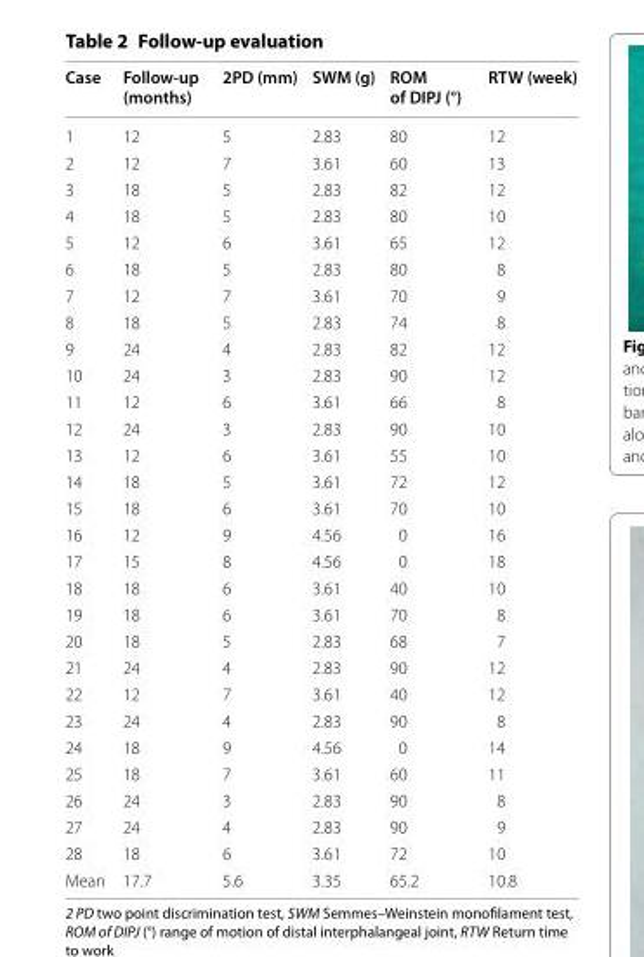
<table><thead><tr><td>Case</td><td>Follow-up (months)</td><td>2PD (mm)</td><td>SWM (g)</td><td>ROM of DIPJ (°)</td><td>RTW (week)</td></tr></thead><tbody><tr><td>1</td><td>12</td><td>5</td><td>2.83</td><td>80</td><td>12</td></tr><tr><td>2</td><td>12</td><td>7</td><td>3.61</td><td>60</td><td>13</td></tr><tr><td>3</td><td>18</td><td>5</td><td>2.83</td><td>82</td><td>12</td></tr><tr><td>4</td><td>18</td><td>5</td><td>2.83</td><td>80</td><td>10</td></tr><tr><td>5</td><td>12</td><td>6</td><td>3.61</td><td>65</td><td>12</td></tr><tr><td>6</td><td>18</td><td>5</td><td>2.83</td><td>80</td><td>8</td></tr><tr><td>7</td><td>12</td><td>7</td><td>3.61</td><td>70</td><td>9</td></tr><tr><td>8</td><td>18</td><td>5</td><td>2.83</td><td>74</td><td>8</td></tr><tr><td>9</td><td>24</td><td>4</td><td>2.83</td><td>82</td><td>12</td></tr><tr><td>10</td><td>24</td><td>3</td><td>2.83</td><td>90</td><td>12</td></tr><tr><td>11</td><td>12</td><td>6</td><td>3.61</td><td>66</td><td>8</td></tr><tr><td>12</td><td>24</td><td>3</td><td>2.83</td><td>90</td><td>10</td></tr><tr><td>13</td><td>12</td><td>6</td><td>3.61</td><td>55</td><td>10</td></tr><tr><td>14</td><td>18</td><td>5</td><td>3.61</td><td>72</td><td>12</td></tr><tr><td>15</td><td>18</td><td>6</td><td>3.61</td><td>70</td><td>10</td></tr><tr><td>16</td><td>12</td><td>9</td><td>4.56</td><td>0</td><td>16</td></tr><tr><td>17</td><td>15</td><td>8</td><td>4.56</td><td>0</td><td>18</td></tr><tr><td>18</td><td>18</td><td>6</td><td>3.61</td><td>40</td><td>10</td></tr><tr><td>19</td><td>18</td><td>6</td><td>3.61</td><td>70</td><td>8</td></tr><tr><td>20</td><td>18</td><td>5</td><td>2.83</td><td>68</td><td>7</td></tr><tr><td>21</td><td>24</td><td>4</td><td>2.83</td><td>90</td><td>12</td></tr><tr><td>22</td><td>12</td><td>7</td><td>3.61</td><td>40</td><td>12</td></tr><tr><td>23</td><td>24</td><td>4</td><td>2.83</td><td>90</td><td>8</td></tr><tr><td>24</td><td>18</td><td>9</td><td>4.56</td><td>0</td><td>14</td></tr><tr><td>25</td><td>18</td><td>7</td><td>3.61</td><td>60</td><td>11</td></tr><tr><td>26</td><td>24</td><td>3</td><td>2.83</td><td>90</td><td>8</td></tr><tr><td>27</td><td>24</td><td>4</td><td>2.83</td><td>90</td><td>9</td></tr><tr><td>28</td><td>18</td><td>6</td><td>3.61</td><td>72</td><td>10</td></tr><tr><td>Mean</td><td>17.7</td><td>5.6</td><td>3.35</td><td>65.2</td><td>10.8</td></tr></tbody></table>